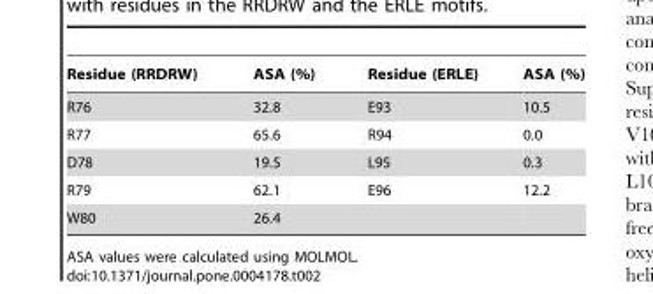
<table><thead><tr><td>Residue (RRDRW)</td><td>ASA (%)</td><td>Residue (ERLE)</td><td>ASA (%)</td></tr></thead><tbody><tr><td>R76</td><td>32.8</td><td>E93</td><td>10.5</td></tr><tr><td>R77</td><td>65.6</td><td>R94</td><td>0.0</td></tr><tr><td>D78</td><td>19.5</td><td>L95</td><td>0.3</td></tr><tr><td>R79</td><td>62.1</td><td>E96</td><td>12.2</td></tr><tr><td>W80</td><td>26.4</td><td></td><td></td></tr></tbody></table>